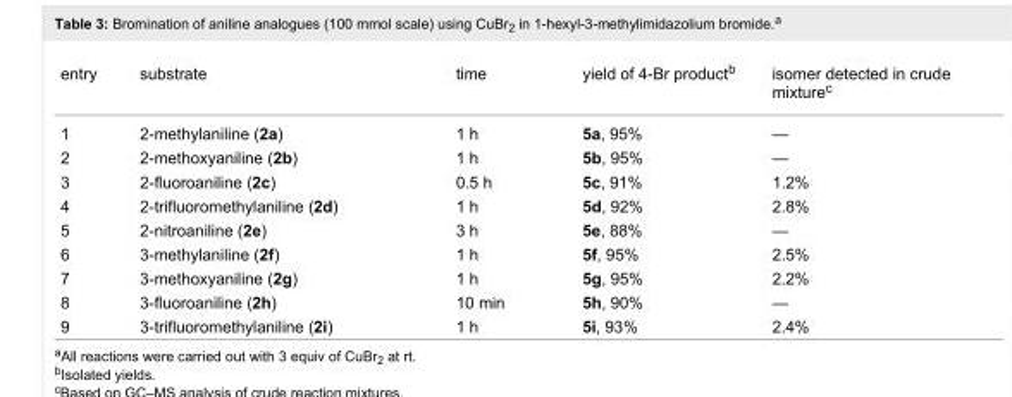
<table><tbody><tr><td>entry</td><td>substrate</td><td>time</td><td>yield of 4-Br product<sup>b</sup></td><td>isomer detected in crude mixture<sup>c</sup></td></tr><tr><td>1</td><td>2-methylaniline (2a)</td><td>1 h</td><td>5a, 95%</td><td>—</td></tr><tr><td>2</td><td>2-methoxyaniline (2b)</td><td>1 h</td><td>5b, 95%</td><td>—</td></tr><tr><td>3</td><td>2-fluoroaniline (2c)</td><td>0.5 h</td><td>5c, 91%</td><td>1.2%</td></tr><tr><td>4</td><td>2-trifluoromethylaniline (2d)</td><td>1 h</td><td>5d, 92%</td><td>2.8%</td></tr><tr><td>5</td><td>2-nitroaniline (2e)</td><td>3 h</td><td>5e, 88%</td><td>—</td></tr><tr><td>6</td><td>3-methylaniline (2f)</td><td>1 h</td><td>5f, 95%</td><td>2.5%</td></tr><tr><td>7</td><td>3-methoxyaniline (2g)</td><td>1 h</td><td>5g, 95%</td><td>2.2%</td></tr><tr><td>8</td><td>3-fluoroaniline (2h)</td><td>10 min</td><td>5h, 90%</td><td>—</td></tr><tr><td>9</td><td>3-trifluoromethylaniline (2i)</td><td>1 h</td><td>5i, 93%</td><td>2.4%</td></tr></tbody></table>